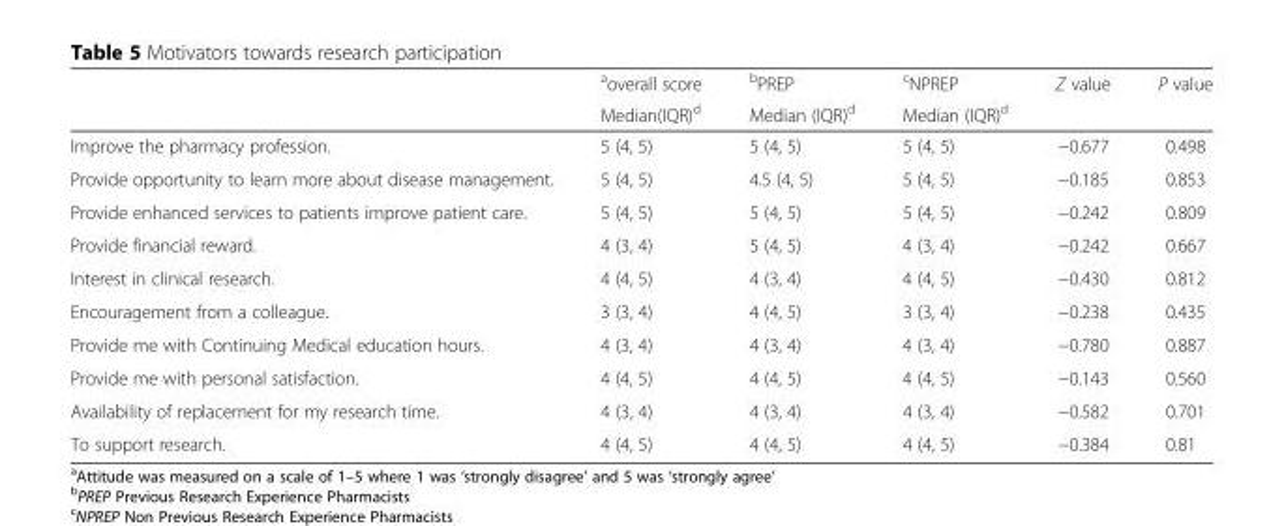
<table><thead><tr><td rowspan="2"></td><td rowspan="2"><sup>a</sup>overall score Median(IQR)<sup>d</sup></td><td rowspan="2"><sup>b</sup>PREP Median (IQR)<sup>d</sup></td><td rowspan="2"><sup>c</sup>NPREP Median (IQR)<sup>d</sup></td><td rowspan="2">Z value</td><td rowspan="2">P value</td></tr><tr></tr></thead><tbody><tr><td>Improve the pharmacy profession.</td><td>5 (4, 5)</td><td>5 (4, 5)</td><td>5 (4, 5)</td><td>−0.677</td><td>0.498</td></tr><tr><td>Provide opportunity to learn more about disease management.</td><td>5 (4, 5)</td><td>4.5 (4, 5)</td><td>5 (4, 5)</td><td>−0.185</td><td>0.853</td></tr><tr><td>Provide enhanced services to patients improve patient care.</td><td>5 (4, 5)</td><td>5 (4, 5)</td><td>5 (4, 5)</td><td>−0.242</td><td>0.809</td></tr><tr><td>Provide financial reward.</td><td>4 (3, 4)</td><td>5 (4, 5)</td><td>4 (3, 4)</td><td>−0.242</td><td>0.667</td></tr><tr><td>Interest in clinical research.</td><td>4 (4, 5)</td><td>4 (3, 4)</td><td>4 (4, 5)</td><td>−0.430</td><td>0.812</td></tr><tr><td>Encouragement from a colleague.</td><td>3 (3, 4)</td><td>4 (4, 5)</td><td>3 (3, 4)</td><td>−0.238</td><td>0.435</td></tr><tr><td>Provide me with Continuing Medical education hours.</td><td>4 (3, 4)</td><td>4 (3, 4)</td><td>4 (3, 4)</td><td>−0.780</td><td>0.887</td></tr><tr><td>Provide me with personal satisfaction.</td><td>4 (4, 5)</td><td>4 (4, 5)</td><td>4 (4, 5)</td><td>−0.143</td><td>0.560</td></tr><tr><td>Availability of replacement for my research time.</td><td>4 (3, 4)</td><td>4 (3, 4)</td><td>4 (3, 4)</td><td>−0.582</td><td>0.701</td></tr><tr><td>To support research.</td><td>4 (4, 5)</td><td>4 (4, 5)</td><td>4 (4, 5)</td><td>−0.384</td><td>0.81</td></tr></tbody></table>